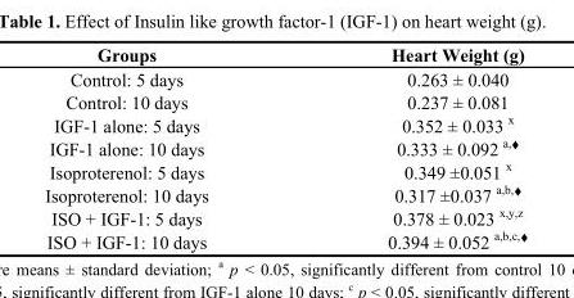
<table><thead><tr><td>Groups</td><td>Heart Weight (g)</td></tr></thead><tbody><tr><td>Control: 5 days</td><td>0.263 ± 0.040</td></tr><tr><td>Control: 10 days</td><td>0.237 ± 0.081</td></tr><tr><td>IGF-1 alone: 5 days</td><td>0.352 ± 0.033 x</td></tr><tr><td>IGF-1 alone: 10 days</td><td>0.333 ± 0.092 a,♦</td></tr><tr><td>Isoproterenol: 5 days</td><td>0.349 ±0.051 x</td></tr><tr><td>Isoproterenol: 10 days</td><td>0.317 ±0.037 a,b,♦</td></tr><tr><td>ISO + IGF-1: 5 days</td><td>0.378 ± 0.023 x,y,z</td></tr><tr><td>ISO + IGF-1: 10 days</td><td>0.394 ± 0.052 a,b,c,♦</td></tr></tbody></table>